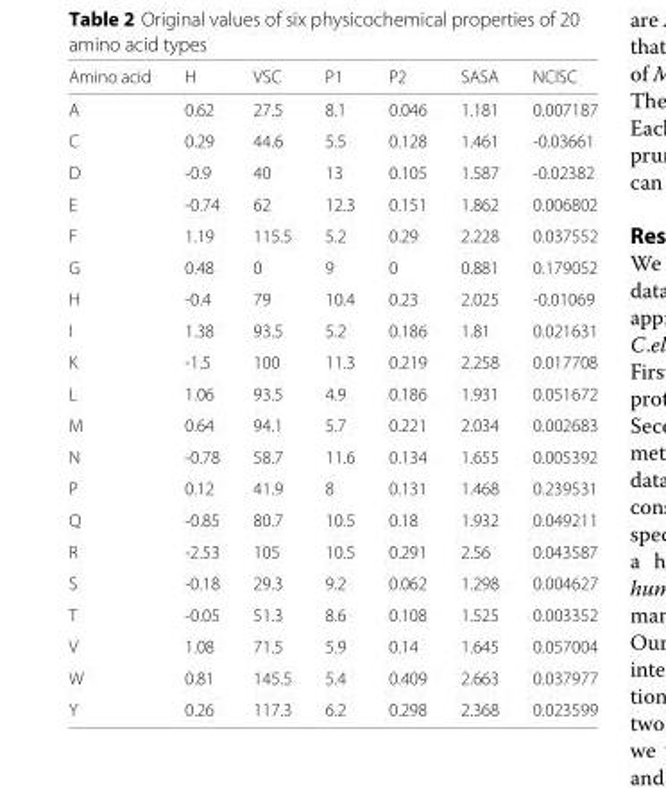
<table><thead><tr><td>Amino acid</td><td>H</td><td>VSC</td><td>P1</td><td>P2</td><td>SASA</td><td>NCISC</td></tr></thead><tbody><tr><td>A</td><td>0.62</td><td>27.5</td><td>8.1</td><td>0.046</td><td>1.181</td><td>0.007187</td></tr><tr><td>C</td><td>0.29</td><td>44.6</td><td>5.5</td><td>0.128</td><td>1.461</td><td>-0.03661</td></tr><tr><td>D</td><td>-0.9</td><td>40</td><td>13</td><td>0.105</td><td>1.587</td><td>-0.02382</td></tr><tr><td>E</td><td>-0.74</td><td>62</td><td>12.3</td><td>0.151</td><td>1.862</td><td>0.006802</td></tr><tr><td>F</td><td>1.19</td><td>115.5</td><td>5.2</td><td>0.29</td><td>2.228</td><td>0.037552</td></tr><tr><td>G</td><td>0.48</td><td>0</td><td>9</td><td>0</td><td>0.881</td><td>0.179052</td></tr><tr><td>H</td><td>-0.4</td><td>79</td><td>10.4</td><td>0.23</td><td>2.025</td><td>-0.01069</td></tr><tr><td>I</td><td>1.38</td><td>93.5</td><td>5.2</td><td>0.186</td><td>1.81</td><td>0.021631</td></tr><tr><td>K</td><td>-1.5</td><td>100</td><td>11.3</td><td>0.219</td><td>2.258</td><td>0.017708</td></tr><tr><td>L</td><td>1.06</td><td>93.5</td><td>4.9</td><td>0.186</td><td>1.931</td><td>0.051672</td></tr><tr><td>M</td><td>0.64</td><td>94.1</td><td>5.7</td><td>0.221</td><td>2.034</td><td>0.002683</td></tr><tr><td>N</td><td>-0.78</td><td>58.7</td><td>11.6</td><td>0.134</td><td>1.655</td><td>0.005392</td></tr><tr><td>P</td><td>0.12</td><td>41.9</td><td>8</td><td>0.131</td><td>1.468</td><td>0.239531</td></tr><tr><td>Q</td><td>-0.85</td><td>80.7</td><td>10.5</td><td>0.18</td><td>1.932</td><td>0.049211</td></tr><tr><td>R</td><td>-2.53</td><td>105</td><td>10.5</td><td>0.291</td><td>2.56</td><td>0.043587</td></tr><tr><td>S</td><td>-0.18</td><td>29.3</td><td>9.2</td><td>0.062</td><td>1.298</td><td>0.004627</td></tr><tr><td>T</td><td>-0.05</td><td>51.3</td><td>8.6</td><td>0.108</td><td>1.525</td><td>0.003352</td></tr><tr><td>V</td><td>1.08</td><td>71.5</td><td>5.9</td><td>0.14</td><td>1.645</td><td>0.057004</td></tr><tr><td>W</td><td>0.81</td><td>145.5</td><td>5.4</td><td>0.409</td><td>2.663</td><td>0.037977</td></tr><tr><td>Y</td><td>0.26</td><td>117.3</td><td>6.2</td><td>0.298</td><td>2.368</td><td>0.023599</td></tr></tbody></table>